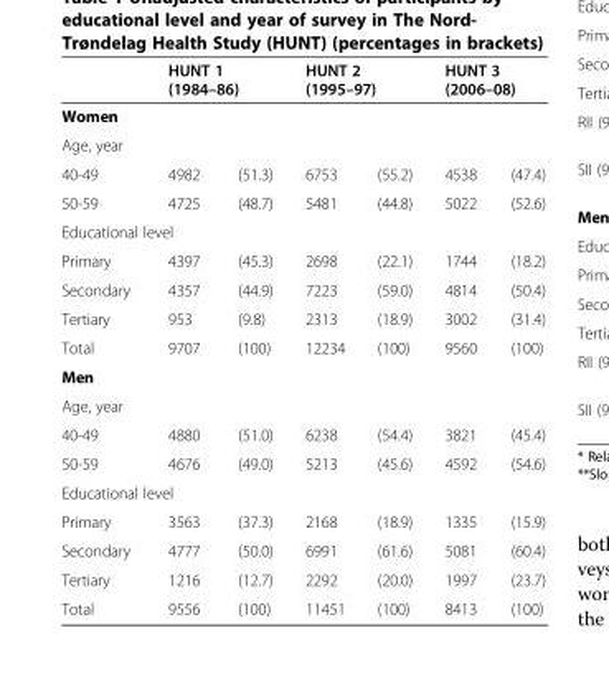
<table><thead><tr><td rowspan="2">Women</td><td colspan="2">HUNT 1 (1984–86)</td><td colspan="2">HUNT 2 (1995–97)</td><td colspan="2">HUNT 3 (2006–08)</td></tr><tr><td></td><td></td><td></td><td></td><td></td><td></td></tr></thead><tbody><tr><td colspan="7">Age, year</td></tr><tr><td>40-49</td><td>4982</td><td>(51.3)</td><td>6753</td><td>(55.2)</td><td>4538</td><td>(47.4)</td></tr><tr><td>50-59</td><td>4725</td><td>(48.7)</td><td>5481</td><td>(44.8)</td><td>5022</td><td>(52.6)</td></tr><tr><td colspan="7">Educational level</td></tr><tr><td>Primary</td><td>4397</td><td>(45.3)</td><td>2698</td><td>(22.1)</td><td>1744</td><td>(18.2)</td></tr><tr><td>Secondary</td><td>4357</td><td>(44.9)</td><td>7223</td><td>(59.0)</td><td>4814</td><td>(50.4)</td></tr><tr><td>Tertiary</td><td>953</td><td>(9.8)</td><td>2313</td><td>(18.9)</td><td>3002</td><td>(31.4)</td></tr><tr><td>Total</td><td>9707</td><td>(100)</td><td>12234</td><td>(100)</td><td>9560</td><td>(100)</td></tr><tr><td colspan="7">Men</td></tr><tr><td colspan="7">Age, year</td></tr><tr><td>40-49</td><td>4880</td><td>(51.0)</td><td>6238</td><td>(54.4)</td><td>3821</td><td>(45.4)</td></tr><tr><td>50-59</td><td>4676</td><td>(49.0)</td><td>5213</td><td>(45.6)</td><td>4592</td><td>(54.6)</td></tr><tr><td colspan="7">Educational level</td></tr><tr><td>Primary</td><td>3563</td><td>(37.3)</td><td>2168</td><td>(18.9)</td><td>1335</td><td>(15.9)</td></tr><tr><td>Secondary</td><td>4777</td><td>(50.0)</td><td>6991</td><td>(61.6)</td><td>5081</td><td>(60.4)</td></tr><tr><td>Tertiary</td><td>1216</td><td>(12.7)</td><td>2292</td><td>(20.0)</td><td>1997</td><td>(23.7)</td></tr><tr><td>Total</td><td>9556</td><td>(100)</td><td>11451</td><td>(100)</td><td>8413</td><td>(100)</td></tr></tbody></table>